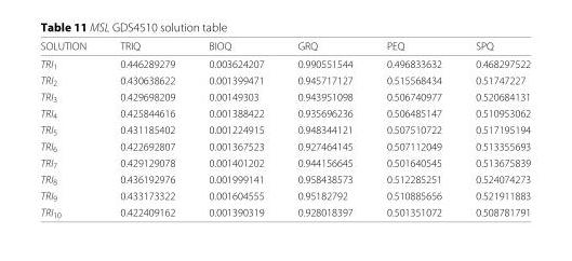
<table><thead><tr><td>SOLUTION</td><td>TRIQ</td><td>BIOQ</td><td>GRQ</td><td>PEQ</td><td>SPQ</td></tr></thead><tbody><tr><td>TRI<sub>1</sub></td><td>0.446289279</td><td>0.003624207</td><td>0.990551544</td><td>0.496833632</td><td>0.468297522</td></tr><tr><td>TRI<sub>2</sub></td><td>0.430638622</td><td>0.001399471</td><td>0.945717127</td><td>0.515568434</td><td>0.51747227</td></tr><tr><td>TRI<sub>3</sub></td><td>0.429698209</td><td>0.00149303</td><td>0.943951098</td><td>0.506740977</td><td>0.520684131</td></tr><tr><td>TRI<sub>4</sub></td><td>0.425844616</td><td>0.001388422</td><td>0.935696236</td><td>0.506485147</td><td>0.510953062</td></tr><tr><td>TRI<sub>5</sub></td><td>0.431185402</td><td>0.001224915</td><td>0.948344121</td><td>0.507510722</td><td>0.517195194</td></tr><tr><td>TRI<sub>6</sub></td><td>0.422692807</td><td>0.001367523</td><td>0.927464145</td><td>0.507112049</td><td>0.513355693</td></tr><tr><td>TRI<sub>7</sub></td><td>0.429129078</td><td>0.001401202</td><td>0.944156645</td><td>0.501640545</td><td>0.513675839</td></tr><tr><td>TRI<sub>8</sub></td><td>0.436192976</td><td>0.001999141</td><td>0.958438573</td><td>0.512285251</td><td>0.524074273</td></tr><tr><td>TRI<sub>9</sub></td><td>0.433173322</td><td>0.001604555</td><td>0.95182792</td><td>0.510885656</td><td>0.521911883</td></tr><tr><td>TRI<sub>10</sub></td><td>0.422409162</td><td>0.001390319</td><td>0.928018397</td><td>0.501351072</td><td>0.508781791</td></tr></tbody></table>